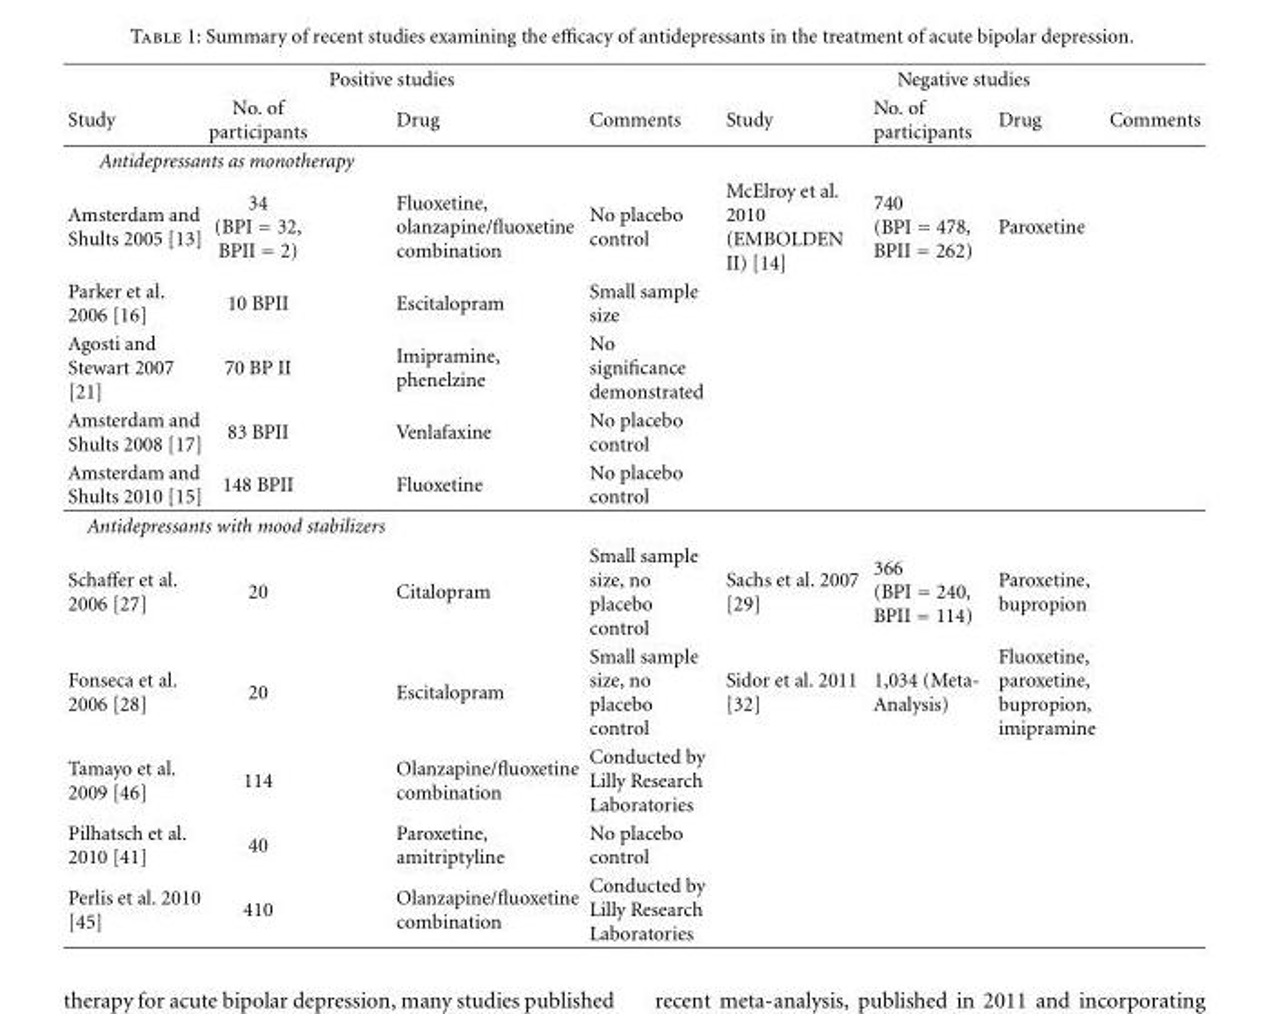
<table><thead><tr><td colspan="4">Positive studies</td><td colspan="4">Negative studies</td></tr><tr><td>Study</td><td>No. of participants</td><td>Drug</td><td>Comments</td><td>Study</td><td>No. of participants</td><td>Drug</td><td>Comments</td></tr></thead><tbody><tr><td colspan="8">Antidepressants as monotherapy</td></tr><tr><td>Amsterdam and Shults 2005 [13]</td><td>34 (BPI = 32, BPII = 2)</td><td>Fluoxetine, olanzapine/fluoxetine combination</td><td>No placebo control</td><td>McElroy et al. 2010 (EMBOLDEN II) [14]</td><td>740 (BPI = 478, BPII = 262)</td><td>Paroxetine</td><td></td></tr><tr><td>Parker et al. 2006 [16]</td><td>10 BPII</td><td>Escitalopram</td><td>Small sample size</td><td></td><td></td><td></td><td></td></tr><tr><td>Agosti and Stewart 2007 [21]</td><td>70 BP II</td><td>Imipramine, phenelzine</td><td>No significance demonstrated</td><td></td><td></td><td></td><td></td></tr><tr><td>Amsterdam and Shults 2008 [17]</td><td>83 BPII</td><td>Venlafaxine</td><td>No placebo control</td><td></td><td></td><td></td><td></td></tr><tr><td>Amsterdam and Shults 2010 [15]</td><td>148 BPII</td><td>Fluoxetine</td><td>No placebo control</td><td></td><td></td><td></td><td></td></tr><tr><td colspan="8">Antidepressants with mood stabilizers</td></tr><tr><td>Schaffer et al. 2006 [27]</td><td>20</td><td>Citalopram</td><td>Small sample size, no placebo control</td><td>Sachs et al. 2007 [29]</td><td>366 (BPI = 240, BPII = 114)</td><td>Paroxetine, bupropion</td><td></td></tr><tr><td>Fonseca et al. 2006 [28]</td><td>20</td><td>Escitalopram</td><td>Small sample size, no placebo control</td><td>Sidor et al. 2011 [32]</td><td>1,034 (Meta- Analysis)</td><td>Fluoxetine, paroxetine, bupropion, imipramine</td><td></td></tr><tr><td>Tamayo et al. 2009 [46]</td><td>114</td><td>Olanzapine/fluoxetine combination</td><td>Conducted by Lilly Research Laboratories</td><td></td><td></td><td></td><td></td></tr><tr><td>Pilhatsch et al. 2010 [41]</td><td>40</td><td>Paroxetine, amitriptyline</td><td>No placebo control</td><td></td><td></td><td></td><td></td></tr><tr><td>Perlis et al. 2010 [45]</td><td>410</td><td>Olanzapine/fluoxetine combination</td><td>Conducted by Lilly Research Laboratories</td><td></td><td></td><td></td><td></td></tr></tbody></table>